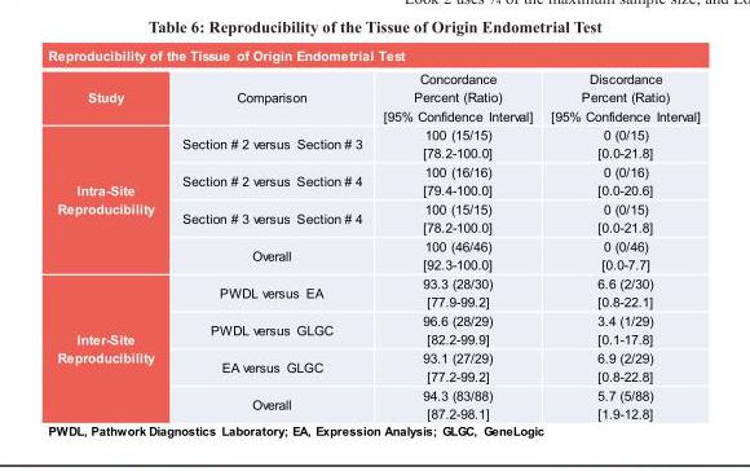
<table><thead><tr><td colspan="4">Reproducibility of the Tissue of Origin Endometrial Test</td></tr><tr><td>Study</td><td>Comparison</td><td>Concordance Percent (Ratio) [95% Confidence Interval]</td><td>Discordance Percent (Ratio) [95% Confidence Interval]</td></tr></thead><tbody><tr><td rowspan="4">Intra-Site Reproducibility</td><td>Section # 2 versus Section # 3</td><td>100 (15/15) [78.2-100.0]</td><td>0 (0/15) [0.0-21.8]</td></tr><tr><td>Section # 2 versus Section # 4</td><td>100 (16/16) [79.4-100.0]</td><td>0 (0/16) [0.0-20.6]</td></tr><tr><td>Section # 3 versus Section # 4</td><td>100 (15/15) [78.2-100.0]</td><td>0 (0/15) [0.0-21.8]</td></tr><tr><td>Overall</td><td>100 (46/46) [92.3-100.0]</td><td>0 (0/46) [0.0-7.7]</td></tr><tr><td rowspan="4">Inter-Site Reproducibility</td><td>PWDL versus EA</td><td>93.3 (28/30) [77.9-99.2]</td><td>6.6 (2/30) [0.8-22.1]</td></tr><tr><td>PWDL versus GLGC</td><td>96.6 (28/29) [82.2-99.9]</td><td>3.4 (1/29) [0.1-17.8]</td></tr><tr><td>EA versus GLGC</td><td>93.1 (27/29) [77.2-99.2]</td><td>6.9 (2/29) [0.8-22.8]</td></tr><tr><td>Overall</td><td>94.3 (83/88) [87.2-98.1]</td><td>5.7 (5/88) [1.9-12.8]</td></tr></tbody></table>